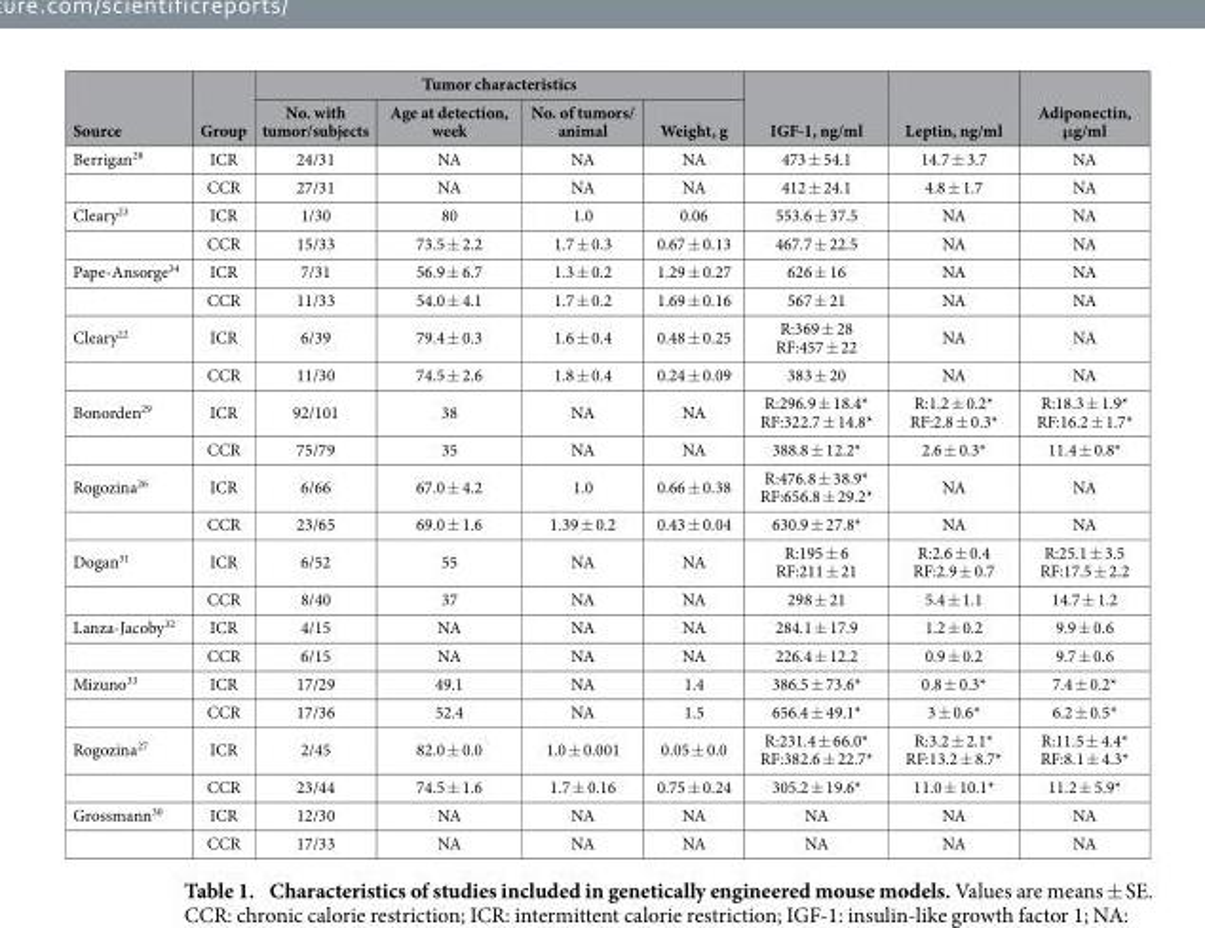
<table><thead><tr><td rowspan="2">Source</td><td rowspan="2">Group</td><td colspan="4">Tumor characteristics</td><td rowspan="2">IGF-1, ng/ml</td><td rowspan="2">Leptin, ng/ml</td><td rowspan="2">Adiponectin, μg/ml</td></tr><tr><td>No. with tumor/subjects</td><td>Age at detection, week</td><td>No. of tumors/ animal</td><td>Weight, g</td></tr></thead><tbody><tr><td rowspan="2">Berrigan<sup>28</sup></td><td>ICR</td><td>24/31</td><td>NA</td><td>NA</td><td>NA</td><td>473 ± 54.1</td><td>14.7 ± 3.7</td><td>NA</td></tr><tr><td>CCR</td><td>27/31</td><td>NA</td><td>NA</td><td>NA</td><td>412 ± 24.1</td><td>4.8 ± 1.7</td><td>NA</td></tr><tr><td rowspan="2">Cleary<sup>23</sup></td><td>ICR</td><td>1/30</td><td>80</td><td>1.0</td><td>0.06</td><td>553.6 ± 37.5</td><td>NA</td><td>NA</td></tr><tr><td>CCR</td><td>15/33</td><td>73.5 ± 2.2</td><td>1.7 ± 0.3</td><td>0.67 ± 0.13</td><td>467.7 ± 22.5</td><td>NA</td><td>NA</td></tr><tr><td rowspan="2">Pape-Ansorge<sup>34</sup></td><td>ICR</td><td>7/31</td><td>56.9 ± 6.7</td><td>1.3 ± 0.2</td><td>1.29 ± 0.27</td><td>626 ± 16</td><td>NA</td><td>NA</td></tr><tr><td>CCR</td><td>11/33</td><td>54.0 ± 4.1</td><td>1.7 ± 0.2</td><td>1.69 ± 0.16</td><td>567 ± 21</td><td>NA</td><td>NA</td></tr><tr><td rowspan="2">Cleary<sup>22</sup></td><td>ICR</td><td>6/39</td><td>79.4 ± 0.3</td><td>1.6 ± 0.4</td><td>0.48 ± 0.25</td><td>R:369 ± 28 RF:457 ± 22</td><td>NA</td><td>NA</td></tr><tr><td>CCR</td><td>11/30</td><td>74.5 ± 2.6</td><td>1.8 ± 0.4</td><td>0.24 ± 0.09</td><td>383 ± 20</td><td>NA</td><td>NA</td></tr><tr><td rowspan="2">Bonorden<sup>29</sup></td><td>ICR</td><td>92/101</td><td>38</td><td>NA</td><td>NA</td><td>R:296.9 ± 18.4* RF:322.7 ± 14.8*</td><td>R:1.2 ± 0.2* RF:2.8 ± 0.3*</td><td>R:18.3 ± 1.9* RF:16.2 ± 1.7*</td></tr><tr><td>CCR</td><td>75/79</td><td>35</td><td>NA</td><td>NA</td><td>388.8 ± 12.2*</td><td>2.6 ± 0.3*</td><td>11.4 ± 0.8*</td></tr><tr><td rowspan="2">Rogozina<sup>26</sup></td><td>ICR</td><td>6/66</td><td>67.0 ± 4.2</td><td>1.0</td><td>0.66 ± 0.38</td><td>R:476.8 ± 38.9* RF:656.8 ± 29.2*</td><td>NA</td><td>NA</td></tr><tr><td>CCR</td><td>23/65</td><td>69.0 ± 1.6</td><td>1.39 ± 0.2</td><td>0.43 ± 0.04</td><td>630.9 ± 27.8*</td><td>NA</td><td>NA</td></tr><tr><td rowspan="2">Dogan<sup>31</sup></td><td>ICR</td><td>6/52</td><td>55</td><td>NA</td><td>NA</td><td>R:195 ± 6 RF:211 ± 21</td><td>R:2.6 ± 0.4 RF:2.9 ± 0.7</td><td>R:25.1 ± 3.5 RF:17.5 ± 2.2</td></tr><tr><td>CCR</td><td>8/40</td><td>37</td><td>NA</td><td>NA</td><td>298 ± 21</td><td>5.4 ± 1.1</td><td>14.7 ± 1.2</td></tr><tr><td rowspan="2">Lanza-Jacoby<sup>32</sup></td><td>ICR</td><td>4/15</td><td>NA</td><td>NA</td><td>NA</td><td>284.1 ± 17.9</td><td>1.2 ± 0.2</td><td>9.9 ± 0.6</td></tr><tr><td>CCR</td><td>6/15</td><td>NA</td><td>NA</td><td>NA</td><td>226.4 ± 12.2</td><td>0.9 ± 0.2</td><td>9.7 ± 0.6</td></tr><tr><td rowspan="2">Mizuno<sup>33</sup></td><td>ICR</td><td>17/29</td><td>49.1</td><td>NA</td><td>1.4</td><td>386.5 ± 73.6*</td><td>0.8 ± 0.3*</td><td>7.4 ± 0.2*</td></tr><tr><td>CCR</td><td>17/36</td><td>52.4</td><td>NA</td><td>1.5</td><td>656.4 ± 49.1*</td><td>3 ± 0.6*</td><td>6.2 ± 0.5*</td></tr><tr><td rowspan="2">Rogozina<sup>27</sup></td><td>ICR</td><td>2/45</td><td>82.0 ± 0.0</td><td>1.0 ± 0.001</td><td>0.05 ± 0.0</td><td>R:231.4 ± 66.0* RF:382.6 ± 22.7*</td><td>R:3.2 ± 2.1* RF:13.2 ± 8.7*</td><td>R:11.5 ± 4.4* RF:8.1 ± 4.3*</td></tr><tr><td>CCR</td><td>23/44</td><td>74.5 ± 1.6</td><td>1.7 ± 0.16</td><td>0.75 ± 0.24</td><td>305.2 ± 19.6*</td><td>11.0 ± 10.1*</td><td>11.2 ± 5.9*</td></tr><tr><td rowspan="2">Grossmann<sup>30</sup></td><td>ICR</td><td>12/30</td><td>NA</td><td>NA</td><td>NA</td><td>NA</td><td>NA</td><td>NA</td></tr><tr><td>CCR</td><td>17/33</td><td>NA</td><td>NA</td><td>NA</td><td>NA</td><td>NA</td><td>NA</td></tr></tbody></table>